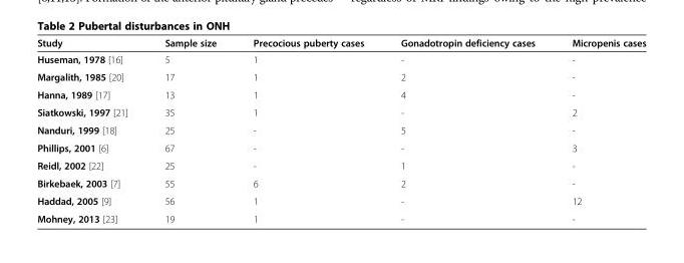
<table><thead><tr><td>Study</td><td>Sample size</td><td>Precocious puberty cases</td><td>Gonadotropin deficiency cases</td><td>Micropenis cases</td></tr></thead><tbody><tr><td>Huseman, 1978 [16]</td><td>5</td><td>1</td><td>-</td><td>-</td></tr><tr><td>Margalith, 1985 [20]</td><td>17</td><td>1</td><td>2</td><td>-</td></tr><tr><td>Hanna, 1989 [17]</td><td>13</td><td>1</td><td>4</td><td>-</td></tr><tr><td>Siatkowski, 1997 [21]</td><td>35</td><td>1</td><td>-</td><td>2</td></tr><tr><td>Nanduri, 1999 [18]</td><td>25</td><td>-</td><td>5</td><td>-</td></tr><tr><td>Phillips, 2001 [6]</td><td>67</td><td>-</td><td>-</td><td>3</td></tr><tr><td>Reidl, 2002 [22]</td><td>25</td><td>-</td><td>1</td><td>-</td></tr><tr><td>Birkebaek, 2003 [7]</td><td>55</td><td>6</td><td>2</td><td>-</td></tr><tr><td>Haddad, 2005 [9]</td><td>56</td><td>1</td><td>-</td><td>12</td></tr><tr><td>Mohney, 2013 [23]</td><td>19</td><td>1</td><td>-</td><td>-</td></tr></tbody></table>